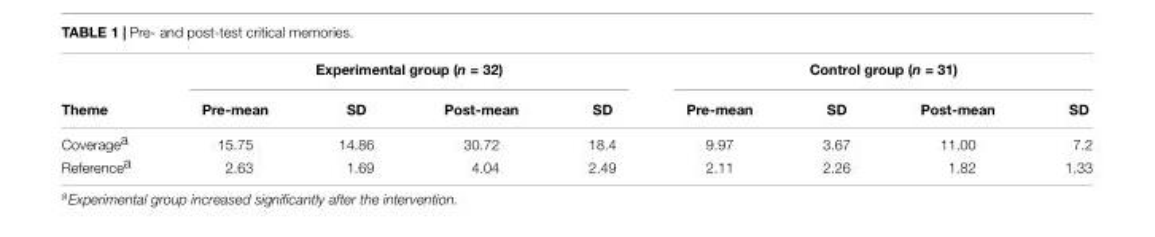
<table><thead><tr><td rowspan="2">Theme</td><td colspan="4">Experimental group (n = 32)</td><td colspan="4">Control group (n = 31)</td></tr><tr><td>Pre-mean</td><td>SD</td><td>Post-mean</td><td>SD</td><td>Pre-mean</td><td>SD</td><td>Post-mean</td><td>SD</td></tr></thead><tbody><tr><td>Coverage<sup>a</sup></td><td>15.75</td><td>14.86</td><td>30.72</td><td>18.4</td><td>9.97</td><td>3.67</td><td>11.00</td><td>7.2</td></tr><tr><td>Reference<sup>a</sup></td><td>2.63</td><td>1.69</td><td>4.04</td><td>2.49</td><td>2.11</td><td>2.26</td><td>1.82</td><td>1.33</td></tr></tbody></table>